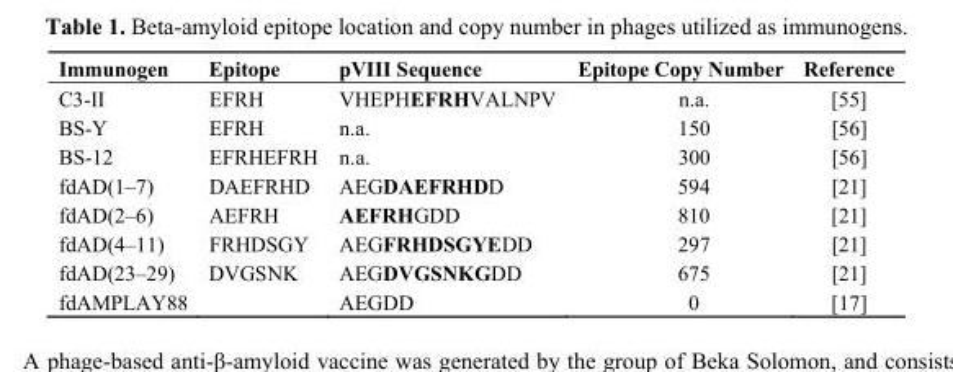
<table><thead><tr><td>Immunogen</td><td>Epitope</td><td>pVIII Sequence</td><td>Epitope Copy Number</td><td>Reference</td></tr></thead><tbody><tr><td>C3-II</td><td>EFRH</td><td>VHEPHEFRHVALNPV</td><td>n.a.</td><td>[55]</td></tr><tr><td>BS-Y</td><td>EFRH</td><td>n.a.</td><td>150</td><td>[56]</td></tr><tr><td>BS-12</td><td>EFRHEFRH</td><td>n.a.</td><td>300</td><td>[56]</td></tr><tr><td>fdAD(1–7)</td><td>DAEFRHD</td><td>AEGDAEFRHDD</td><td>594</td><td>[21]</td></tr><tr><td>fdAD(2–6)</td><td>AEFRH</td><td>AEFRHGDD</td><td>810</td><td>[21]</td></tr><tr><td>fdAD(4–11)</td><td>FRHDSGY</td><td>AEGFRHDSGYEDD</td><td>297</td><td>[21]</td></tr><tr><td>fdAD(23–29)</td><td>DVGSNK</td><td>AEGDVGSNKGDD</td><td>675</td><td>[21]</td></tr><tr><td>fdAMPLAY88</td><td></td><td>AEGDD</td><td>0</td><td>[17]</td></tr></tbody></table>